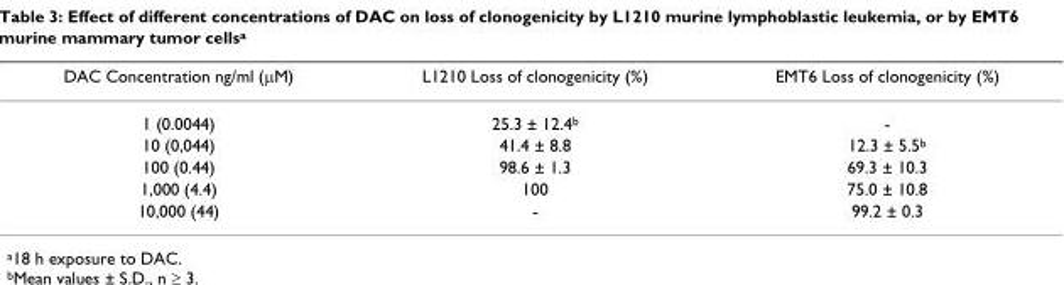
<table><thead><tr><td>DAC Concentration ng/ml (µM)</td><td>L1210 Loss of clonogenicity (%)</td><td>EMT6 Loss of clonogenicity (%)</td></tr></thead><tbody><tr><td>1 (0.0044)</td><td>25.3 ± 12.4<sup>b</sup></td><td>-</td></tr><tr><td>10 (0,044)</td><td>41.4 ± 8.8</td><td>12.3 ± 5.5<sup>b</sup></td></tr><tr><td>100 (0.44)</td><td>98.6 ± 1.3</td><td>69.3 ± 10.3</td></tr><tr><td>1,000 (4.4)</td><td>100</td><td>75.0 ± 10.8</td></tr><tr><td>10,000 (44)</td><td>-</td><td>99.2 ± 0.3</td></tr></tbody></table>